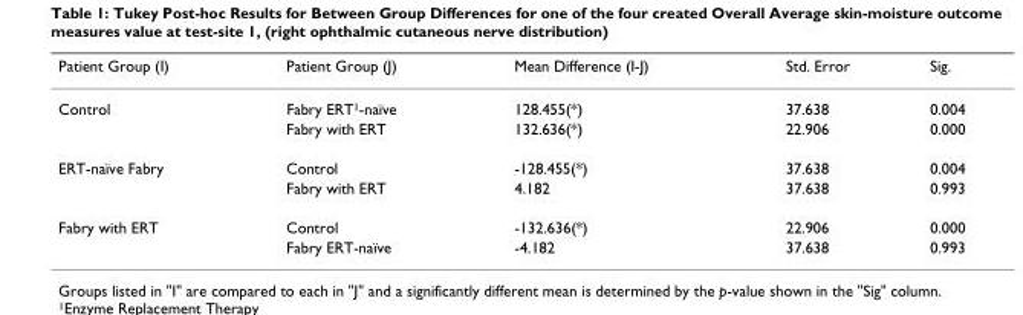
<table><thead><tr><td>Patient Group (I)</td><td>Patient Group (J)</td><td>Mean Difference (I-J)</td><td>Std. Error</td><td>Sig.</td></tr></thead><tbody><tr><td rowspan="2">Control</td><td>Fabry ERT<sup>1</sup>-naïve</td><td>128.455(*)</td><td>37.638</td><td>0.004</td></tr><tr><td>Fabry with ERT</td><td>132.636(*)</td><td>22.906</td><td>0.000</td></tr><tr><td rowspan="2">ERT-naïve Fabry</td><td>Control</td><td>-128.455(*)</td><td>37.638</td><td>0.004</td></tr><tr><td>Fabry with ERT</td><td>4.182</td><td>37.638</td><td>0.993</td></tr><tr><td rowspan="2">Fabry with ERT</td><td>Control</td><td>-132.636(*)</td><td>22.906</td><td>0.000</td></tr><tr><td>Fabry ERT-naïve</td><td>-4.182</td><td>37.638</td><td>0.993</td></tr></tbody></table>